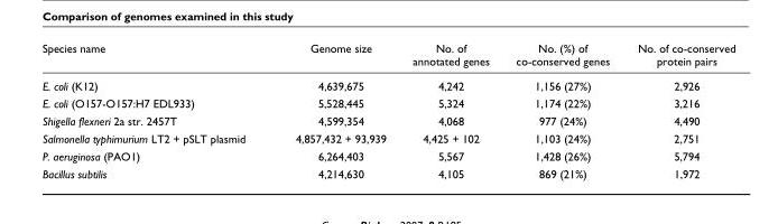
<table><thead><tr><td>Species name</td><td>Genome size</td><td>No. of annotated genes</td><td>No. (%) of co-conserved genes</td><td>No. of co-conserved protein pairs</td></tr></thead><tbody><tr><td>E. coli (K12)</td><td>4,639,675</td><td>4,242</td><td>1,156 (27%)</td><td>2,926</td></tr><tr><td>E. coli (O157-O157:H7 EDL933)</td><td>5,528,445</td><td>5,324</td><td>1,174 (22%)</td><td>3,216</td></tr><tr><td>Shigella flexneri 2a str. 2457T</td><td>4,599,354</td><td>4,068</td><td>977 (24%)</td><td>4,490</td></tr><tr><td>Salmonella typhimurium LT2 + pSLT plasmid</td><td>4,857,432 + 93,939</td><td>4,425 + 102</td><td>1,103 (24%)</td><td>2,751</td></tr><tr><td>P. aeruginosa (PAO1)</td><td>6,264,403</td><td>5,567</td><td>1,428 (26%)</td><td>5,794</td></tr><tr><td>Bacillus subtilis</td><td>4,214,630</td><td>4,105</td><td>869 (21%)</td><td>1,972</td></tr></tbody></table>